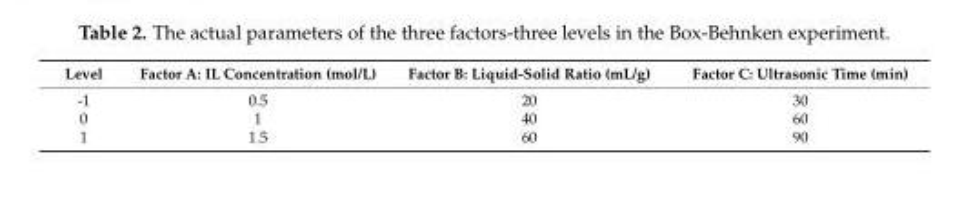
<table><thead><tr><td>Level</td><td>Factor A: IL Concentration (mol/L)</td><td>Factor B: Liquid-Solid Ratio (mL/g)</td><td>Factor C: Ultrasonic Time (min)</td></tr></thead><tbody><tr><td>-1</td><td>0.5</td><td>20</td><td>30</td></tr><tr><td>0</td><td>1</td><td>40</td><td>60</td></tr><tr><td>1</td><td>1.5</td><td>60</td><td>90</td></tr></tbody></table>